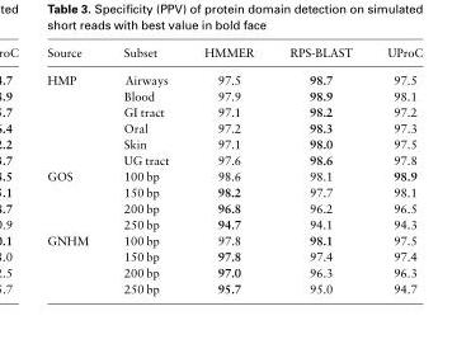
<table><thead><tr><td>Source</td><td>Subset</td><td>HMMER</td><td>RPS-BLAST</td><td>UProC</td></tr></thead><tbody><tr><td rowspan="6">HMP</td><td>Airways</td><td>97.5</td><td>98.7</td><td>97.5</td></tr><tr><td>Blood</td><td>97.9</td><td>98.9</td><td>98.1</td></tr><tr><td>GI tract</td><td>97.1</td><td>98.2</td><td>97.2</td></tr><tr><td>Oral</td><td>97.2</td><td>98.3</td><td>97.3</td></tr><tr><td>Skin</td><td>97.1</td><td>98.0</td><td>97.5</td></tr><tr><td>UG tract</td><td>97.6</td><td>98.6</td><td>97.8</td></tr><tr><td rowspan="4">GOS</td><td>100 bp</td><td>98.6</td><td>98.1</td><td>98.9</td></tr><tr><td>150 bp</td><td>98.2</td><td>97.7</td><td>98.1</td></tr><tr><td>200 bp</td><td>96.8</td><td>96.2</td><td>96.5</td></tr><tr><td>250 bp</td><td>94.7</td><td>94.1</td><td>94.3</td></tr><tr><td rowspan="4">GNHM</td><td>100 bp</td><td>97.8</td><td>98.1</td><td>97.5</td></tr><tr><td>150 bp</td><td>97.8</td><td>97.4</td><td>97.4</td></tr><tr><td>200 bp</td><td>97.0</td><td>96.3</td><td>96.3</td></tr><tr><td>250 bp</td><td>95.7</td><td>95.0</td><td>94.7</td></tr></tbody></table>